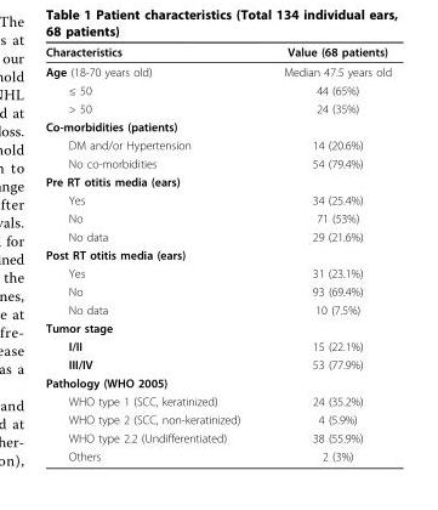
<table><thead><tr><td>Characteristics</td><td>Value (68 patients)</td></tr></thead><tbody><tr><td>Age (18-70 years old)</td><td>Median 47.5 years old</td></tr><tr><td>≤ 50</td><td>44 (65%)</td></tr><tr><td>&gt; 50</td><td>24 (35%)</td></tr><tr><td colspan="2">Co-morbidities (patients)</td></tr><tr><td>DM and/or Hypertension</td><td>14 (20.6%)</td></tr><tr><td>No co-morbidities</td><td>54 (79.4%)</td></tr><tr><td colspan="2">Pre RT otitis media (ears)</td></tr><tr><td>Yes</td><td>34 (25.4%)</td></tr><tr><td>No</td><td>71 (53%)</td></tr><tr><td>No data</td><td>29 (21.6%)</td></tr><tr><td colspan="2">Post RT otitis media (ears)</td></tr><tr><td>Yes</td><td>31 (23.1%)</td></tr><tr><td>No</td><td>93 (69.4%)</td></tr><tr><td>No data</td><td>10 (7.5%)</td></tr><tr><td colspan="2">Tumor stage</td></tr><tr><td>I/II</td><td>15 (22.1%)</td></tr><tr><td>III/IV</td><td>53 (77.9%)</td></tr><tr><td colspan="2">Pathology (WHO 2005)</td></tr><tr><td>WHO type 1 (SCC, keratinized)</td><td>24 (35.2%)</td></tr><tr><td>WHO type 2 (SCC, non-keratinized)</td><td>4 (5.9%)</td></tr><tr><td>WHO type 2.2 (Undifferentiated)</td><td>38 (55.9%)</td></tr><tr><td>Others</td><td>2 (3%)</td></tr></tbody></table>